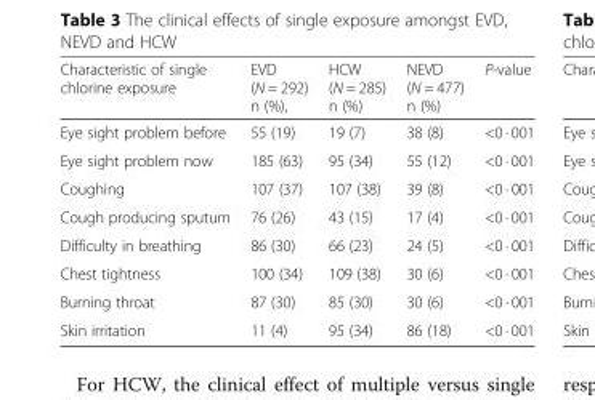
<table><thead><tr><td>Characteristic of single chlorine exposure</td><td>EVD (N = 292) n (%),</td><td>HCW (N = 285) n (%)</td><td>NEVD (N = 477) n (%)</td><td>P-value</td></tr></thead><tbody><tr><td>Eye sight problem before</td><td>55 (19)</td><td>19 (7)</td><td>38 (8)</td><td>&lt;0 · 001</td></tr><tr><td>Eye sight problem now</td><td>185 (63)</td><td>95 (34)</td><td>55 (12)</td><td>&lt;0 · 001</td></tr><tr><td>Coughing</td><td>107 (37)</td><td>107 (38)</td><td>39 (8)</td><td>&lt;0 · 001</td></tr><tr><td>Cough producing sputum</td><td>76 (26)</td><td>43 (15)</td><td>17 (4)</td><td>&lt;0 · 001</td></tr><tr><td>Difficulty in breathing</td><td>86 (30)</td><td>66 (23)</td><td>24 (5)</td><td>&lt;0 · 001</td></tr><tr><td>Chest tightness</td><td>100 (34)</td><td>109 (38)</td><td>30 (6)</td><td>&lt;0 · 001</td></tr><tr><td>Burning throat</td><td>87 (30)</td><td>85 (30)</td><td>30 (6)</td><td>&lt;0 · 001</td></tr><tr><td>Skin irritation</td><td>11 (4)</td><td>95 (34)</td><td>86 (18)</td><td>&lt;0 · 001</td></tr></tbody></table>